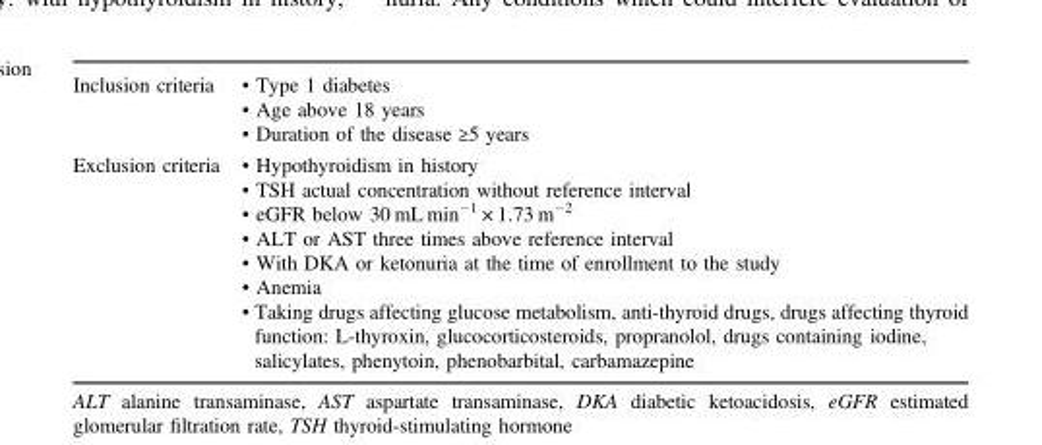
<table><tbody><tr><td>Inclusion criteria</td><td>• Type 1 diabetes • Age above 18 years • Duration of the disease ≥5 years</td></tr><tr><td>Exclusion criteria</td><td>• Hypothyroidism in history • TSH actual concentration without reference interval • eGFR below 30 mL min<sup>−1</sup> × 1.73 m<sup>−2</sup> • ALT or AST three times above reference interval • With DKA or ketonuria at the time of enrollment to the study • Anemia • Taking drugs affecting glucose metabolism, anti-thyroid drugs, drugs affecting thyroid function: L-thyroxin, glucocorticosteroids, propranolol, drugs containing iodine, salicylates, phenytoin, phenobarbital, carbamazepine</td></tr></tbody></table>